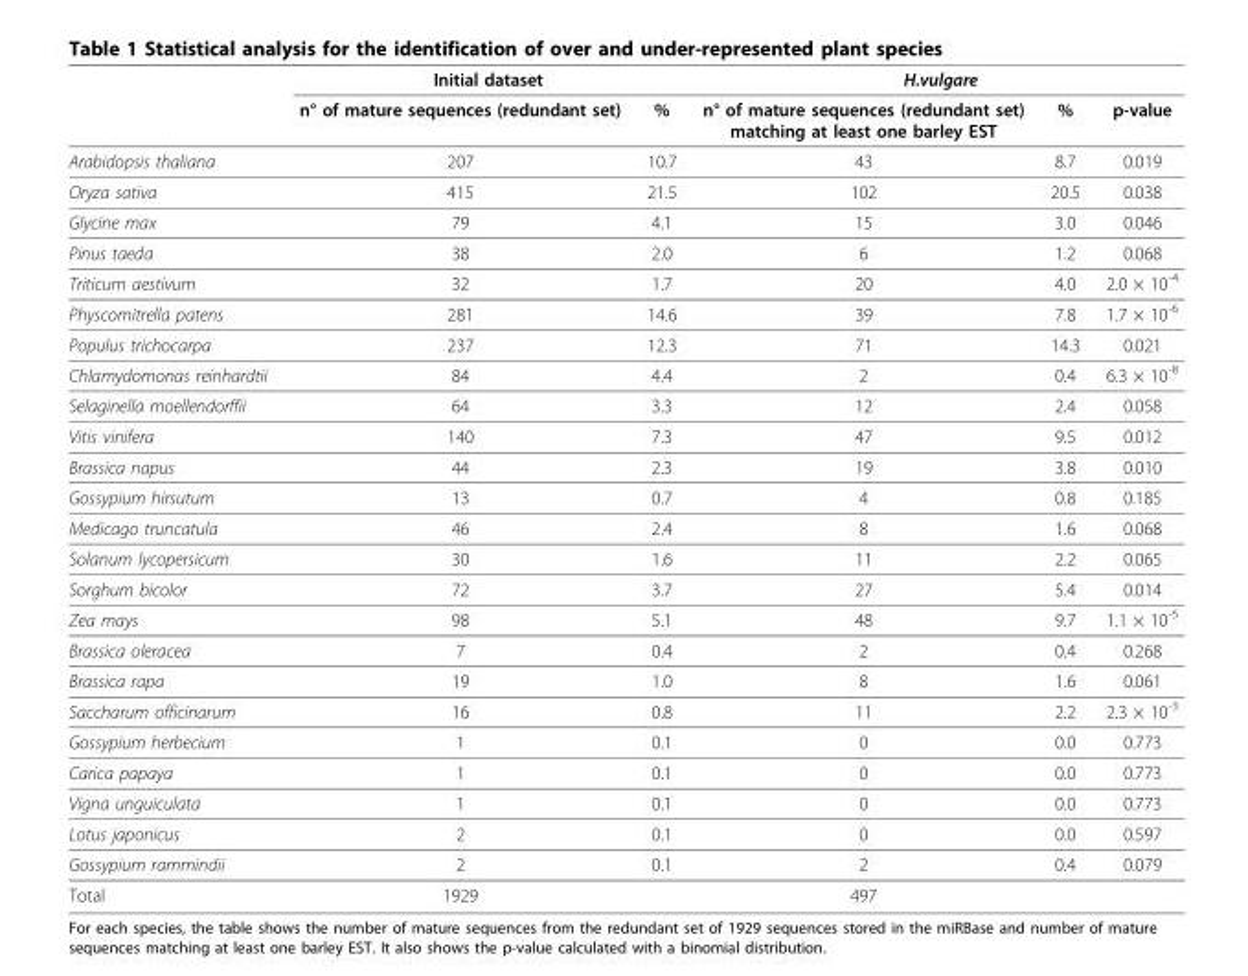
<table><thead><tr><td rowspan="2"></td><td colspan="2">Initial dataset</td><td colspan="3">H.vulgare</td></tr><tr><td>n° of mature sequences (redundant set)</td><td>%</td><td>n° of mature sequences (redundant set) matching at least one barley EST</td><td>%</td><td>p-value</td></tr></thead><tbody><tr><td>Arabidopsis thaliana</td><td>207</td><td>10.7</td><td>43</td><td>8.7</td><td>0.019</td></tr><tr><td>Oryza sativa</td><td>415</td><td>21.5</td><td>102</td><td>20.5</td><td>0.038</td></tr><tr><td>Glycine max</td><td>79</td><td>4.1</td><td>15</td><td>3.0</td><td>0.046</td></tr><tr><td>Pinus taeda</td><td>38</td><td>2.0</td><td>6</td><td>1.2</td><td>0.068</td></tr><tr><td>Triticum aestivum</td><td>32</td><td>1.7</td><td>20</td><td>4.0</td><td>2.0 × 10<sup>-4</sup></td></tr><tr><td>Physcomitrella patens</td><td>281</td><td>14.6</td><td>39</td><td>7.8</td><td>1.7 × 10<sup>-6</sup></td></tr><tr><td>Populus trichocarpa</td><td>237</td><td>12.3</td><td>71</td><td>14.3</td><td>0.021</td></tr><tr><td>Chlamydomonas reinhardtii</td><td>84</td><td>4.4</td><td>2</td><td>0.4</td><td>6.3 × 10<sup>-8</sup></td></tr><tr><td>Selaginella moellendorffii</td><td>64</td><td>3.3</td><td>12</td><td>2.4</td><td>0.058</td></tr><tr><td>Vitis vinifera</td><td>140</td><td>7.3</td><td>47</td><td>9.5</td><td>0.012</td></tr><tr><td>Brassica napus</td><td>44</td><td>2.3</td><td>19</td><td>3.8</td><td>0.010</td></tr><tr><td>Gossypium hirsutum</td><td>13</td><td>0.7</td><td>4</td><td>0.8</td><td>0.185</td></tr><tr><td>Medicago truncatula</td><td>46</td><td>2.4</td><td>8</td><td>1.6</td><td>0.068</td></tr><tr><td>Solanum lycopersicum</td><td>30</td><td>1.6</td><td>11</td><td>2.2</td><td>0.065</td></tr><tr><td>Sorghum bicolor</td><td>72</td><td>3.7</td><td>27</td><td>5.4</td><td>0.014</td></tr><tr><td>Zea mays</td><td>98</td><td>5.1</td><td>48</td><td>9.7</td><td>1.1 × 10<sup>-5</sup></td></tr><tr><td>Brassica oleracea</td><td>7</td><td>0.4</td><td>2</td><td>0.4</td><td>0.268</td></tr><tr><td>Brassica rapa</td><td>19</td><td>1.0</td><td>8</td><td>1.6</td><td>0.061</td></tr><tr><td>Saccharum officinarum</td><td>16</td><td>0.8</td><td>11</td><td>2.2</td><td>2.3 × 10<sup>-3</sup></td></tr><tr><td>Gossypium herbecium</td><td>1</td><td>0.1</td><td>0</td><td>0.0</td><td>0.773</td></tr><tr><td>Carica papaya</td><td>1</td><td>0.1</td><td>0</td><td>0.0</td><td>0.773</td></tr><tr><td>Vigna unguiculata</td><td>1</td><td>0.1</td><td>0</td><td>0.0</td><td>0.773</td></tr><tr><td>Lotus japonicus</td><td>2</td><td>0.1</td><td>0</td><td>0.0</td><td>0.597</td></tr><tr><td>Gossypium rammindii</td><td>2</td><td>0.1</td><td>2</td><td>0.4</td><td>0.079</td></tr><tr><td>Total</td><td>1929</td><td></td><td>497</td><td></td><td></td></tr></tbody></table>